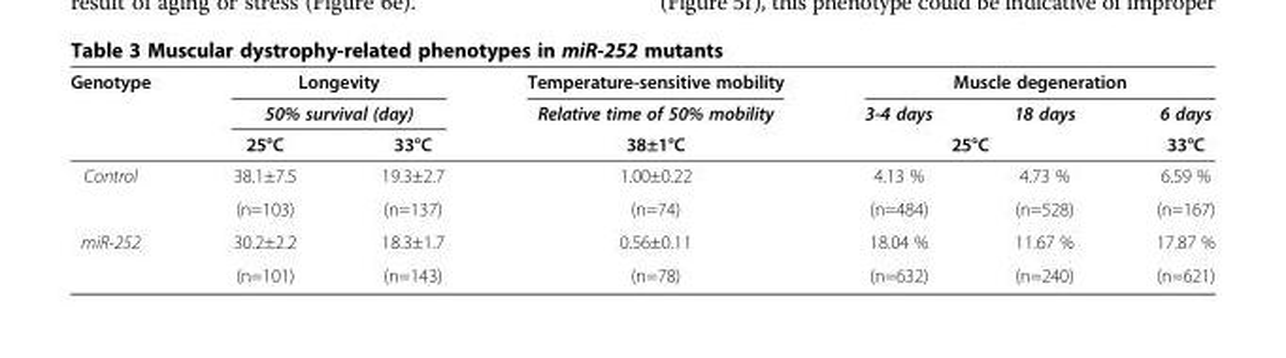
<table><thead><tr><td rowspan="3">Genotype</td><td rowspan="2" colspan="2">Longevity 50% survival (day)</td><td rowspan="3">Temperature-sensitive mobility Relative time of 50% mobility 38±1°C</td><td colspan="3">Muscle degeneration</td></tr><tr><td>3-4 days</td><td>18 days</td><td rowspan="2">6 days 33°C</td></tr><tr><td>25°C</td><td>33°C</td><td colspan="2">25°C</td></tr></thead><tbody><tr><td rowspan="2">Control</td><td>38.1±7.5</td><td>19.3±2.7</td><td>1.00±0.22</td><td>4.13 %</td><td>4.73 %</td><td>6.59 %</td></tr><tr><td>(n=103)</td><td>(n=137)</td><td>(n=74)</td><td>(n=484)</td><td>(n=528)</td><td>(n=167)</td></tr><tr><td rowspan="2">miR-252</td><td>30.2±2.2</td><td>18.3±1.7</td><td>0.56±0.11</td><td>18.04 %</td><td>11.67 %</td><td>17.87 %</td></tr><tr><td>(n=101)</td><td>(n=143)</td><td>(n=78)</td><td>(n=632)</td><td>(n=240)</td><td>(n=621)</td></tr></tbody></table>